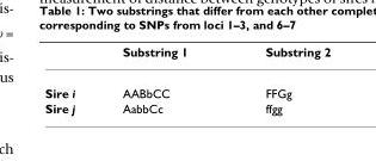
<table><thead><tr><td></td><td>Substring 1</td><td>Substring 2</td></tr></thead><tbody><tr><td>Sire i</td><td>AABbCC</td><td>FFGg</td></tr><tr><td>Sire j</td><td>AabbCc</td><td>ffgg</td></tr></tbody></table>